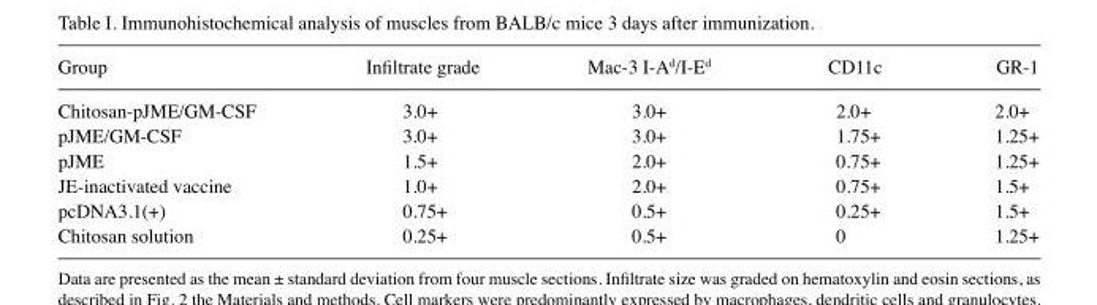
<table><thead><tr><td>Group</td><td>Infiltrate grade</td><td>Mac-3 I-A<sup>d</sup>/I-E<sup>d</sup></td><td>CD11c</td><td>GR-1</td></tr></thead><tbody><tr><td>Chitosan-pJME/GM-CSF</td><td>3.0+</td><td>3.0+</td><td>2.0+</td><td>2.0+</td></tr><tr><td>pJME/GM-CSF</td><td>3.0+</td><td>3.0+</td><td>1.75+</td><td>1.25+</td></tr><tr><td>pJME</td><td>1.5+</td><td>2.0+</td><td>0.75+</td><td>1.25+</td></tr><tr><td>JE-inactivated vaccine</td><td>1.0+</td><td>2.0+</td><td>0.75+</td><td>1.5+</td></tr><tr><td>pcDNA3.1(+)</td><td>0.75+</td><td>0.5+</td><td>0.25+</td><td>1.5+</td></tr><tr><td>Chitosan solution</td><td>0.25+</td><td>0.5+</td><td>0</td><td>1.25+</td></tr></tbody></table>